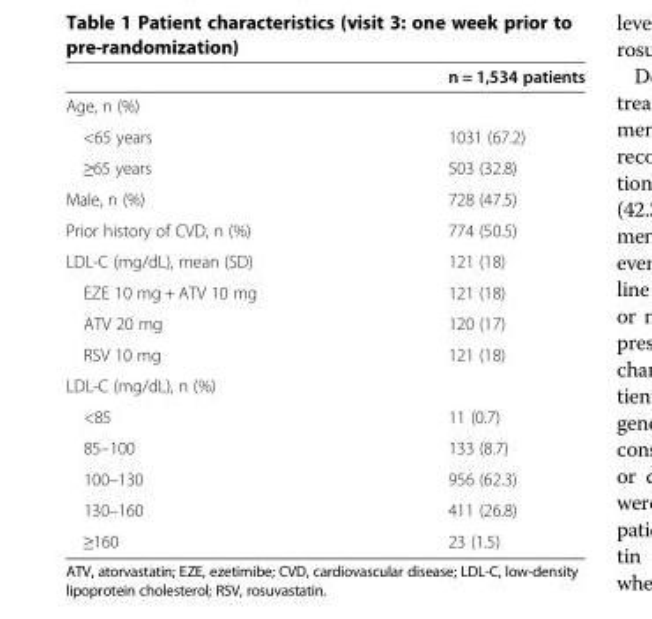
<table><thead><tr><td></td><td>n = 1,534 patients</td></tr></thead><tbody><tr><td colspan="2">Age, n (%)</td></tr><tr><td>&lt;65 years</td><td>1031 (67.2)</td></tr><tr><td>≥65 years</td><td>503 (32.8)</td></tr><tr><td>Male, n (%)</td><td>728 (47.5)</td></tr><tr><td>Prior history of CVD, n (%)</td><td>774 (50.5)</td></tr><tr><td>LDL-C (mg/dL), mean (SD)</td><td>121 (18)</td></tr><tr><td>EZE 10 mg + ATV 10 mg</td><td>121 (18)</td></tr><tr><td>ATV 20 mg</td><td>120 (17)</td></tr><tr><td>RSV 10 mg</td><td>121 (18)</td></tr><tr><td colspan="2">LDL-C (mg/dL), n (%)</td></tr><tr><td>&lt;85</td><td>11 (0.7)</td></tr><tr><td>85–100</td><td>133 (8.7)</td></tr><tr><td>100–130</td><td>956 (62.3)</td></tr><tr><td>130–160</td><td>411 (26.8)</td></tr><tr><td>≥160</td><td>23 (1.5)</td></tr></tbody></table>